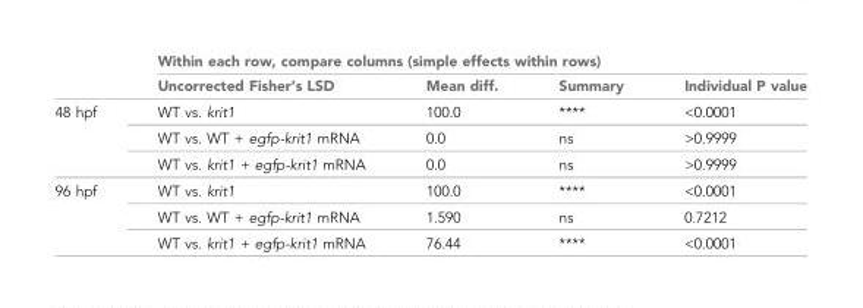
<table><thead><tr><td rowspan="2"></td><td colspan="4">Within each row, compare columns (simple effects within rows)</td></tr><tr><td>Uncorrected Fisher’s LSD</td><td>Mean diff.</td><td>Summary</td><td>Individual P value</td></tr></thead><tbody><tr><td rowspan="3">48 hpf</td><td>WT vs. krit1</td><td>100.0</td><td>****</td><td>&lt;0.0001</td></tr><tr><td>WT vs. WT + egfp-krit1 mRNA</td><td>0.0</td><td>ns</td><td>&gt;0.9999</td></tr><tr><td>WT vs. krit1 + egfp-krit1 mRNA</td><td>0.0</td><td>ns</td><td>&gt;0.9999</td></tr><tr><td rowspan="3">96 hpf</td><td>WT vs. krit1</td><td>100.0</td><td>****</td><td>&lt;0.0001</td></tr><tr><td>WT vs. WT + egfp-krit1 mRNA</td><td>1.590</td><td>ns</td><td>0.7212</td></tr><tr><td>WT vs. krit1 + egfp-krit1 mRNA</td><td>76.44</td><td>****</td><td>&lt;0.0001</td></tr></tbody></table>